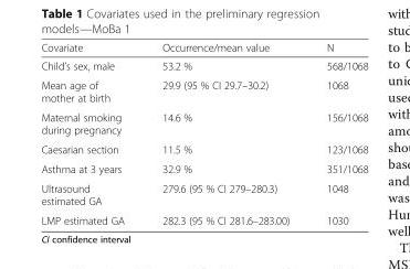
<table><thead><tr><td>Covariate</td><td>Occurrence/mean value</td><td>N</td></tr></thead><tbody><tr><td>Child’s sex, male</td><td>53.2 %</td><td>568/1068</td></tr><tr><td>Mean age of mother at birth</td><td>29.9 (95 % CI 29.7–30.2)</td><td>1068</td></tr><tr><td>Maternal smoking during pregnancy</td><td>14.6 %</td><td>156/1068</td></tr><tr><td>Caesarian section</td><td>11.5 %</td><td>123/1068</td></tr><tr><td>Asthma at 3 years</td><td>32.9 %</td><td>351/1068</td></tr><tr><td>Ultrasound estimated GA</td><td>279.6 (95 % CI 279–280.3)</td><td>1048</td></tr><tr><td>LMP estimated GA</td><td>282.3 (95 % CI 281.6–283.00)</td><td>1030</td></tr></tbody></table>